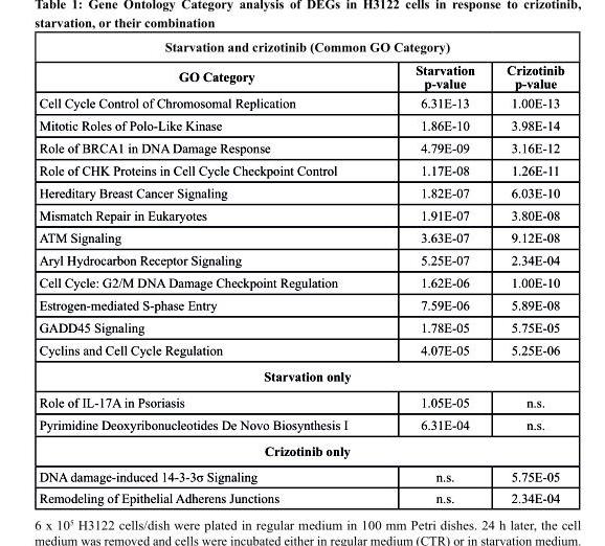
<table><thead><tr><td colspan="3">starvation and crizotinib (common Go category)</td></tr><tr><td>Go category</td><td>starvation p-value</td><td>crizotinib p-value</td></tr></thead><tbody><tr><td>Cell Cycle Control of Chromosomal Replication</td><td>6.31E-13</td><td>1.00E-13</td></tr><tr><td>Mitotic Roles of Polo-Like Kinase</td><td>1.86E-10</td><td>3.98E-14</td></tr><tr><td>Role of BRCA1 in DNA Damage Response</td><td>4.79E-09</td><td>3.16E-12</td></tr><tr><td>Role of CHK Proteins in Cell Cycle Checkpoint Control</td><td>1.17E-08</td><td>1.26E-11</td></tr><tr><td>Hereditary Breast Cancer Signaling</td><td>1.82E-07</td><td>6.03E-10</td></tr><tr><td>Mismatch Repair in Eukaryotes</td><td>1.91E-07</td><td>3.80E-08</td></tr><tr><td>ATM Signaling</td><td>3.63E-07</td><td>9.12E-08</td></tr><tr><td>Aryl Hydrocarbon Receptor Signaling</td><td>5.25E-07</td><td>2.34E-04</td></tr><tr><td>Cell Cycle: G2/M DNA Damage Checkpoint Regulation</td><td>1.62E-06</td><td>1.00E-10</td></tr><tr><td>Estrogen-mediated S-phase Entry</td><td>7.59E-06</td><td>5.89E-08</td></tr><tr><td>GADD45 Signaling</td><td>1.78E-05</td><td>5.75E-05</td></tr><tr><td>Cyclins and Cell Cycle Regulation</td><td>4.07E-05</td><td>5.25E-06</td></tr><tr><td colspan="3">starvation only</td></tr><tr><td>Role of IL-17A in Psoriasis</td><td>1.05E-05</td><td>n.s.</td></tr><tr><td>Pyrimidine Deoxyribonucleotides De Novo Biosynthesis I</td><td>6.31E-04</td><td>n.s.</td></tr><tr><td colspan="3">crizotinib only</td></tr><tr><td>DNA damage-induced 14-3-3σ Signaling</td><td>n.s.</td><td>5.75E-05</td></tr><tr><td>Remodeling of Epithelial Adherens Junctions</td><td>n.s.</td><td>2.34E-04</td></tr></tbody></table>